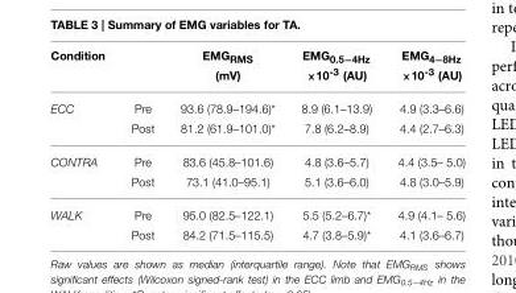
<table><thead><tr><td>Condition</td><td></td><td>EMG<sub>RMS</sub> (mV)</td><td>EMG<sub>0.5−4Hz</sub> ×10<sup>-3</sup> (AU)</td><td>EMG<sub>4−8Hz</sub> ×10<sup>-3</sup> (AU)</td></tr></thead><tbody><tr><td rowspan="2">ECC</td><td>Pre</td><td>93.6 (78.9–194.6)*</td><td>8.9 (6.1–13.9)</td><td>4.9 (3.3–6.6)</td></tr><tr><td>Post</td><td>81.2 (61.9–101.0)*</td><td>7.8 (6.2–8.9)</td><td>4.4 (2.7–6.3)</td></tr><tr><td rowspan="2">CONTRA</td><td>Pre</td><td>83.6 (45.8–101.6)</td><td>4.8 (3.6–5.7)</td><td>4.4 (3.5– 5.0)</td></tr><tr><td>Post</td><td>73.1 (41.0–95.1)</td><td>5.1 (3.6–6.0)</td><td>4.8 (3.0–5.9)</td></tr><tr><td rowspan="2">WALK</td><td>Pre</td><td>95.0 (82.5–122.1)</td><td>5.5 (5.2–6.7)*</td><td>4.9 (4.1– 5.6)</td></tr><tr><td>Post</td><td>84.2 (71.5–115.5)</td><td>4.7 (3.8–5.9)*</td><td>4.1 (3.6–6.7)</td></tr></tbody></table>